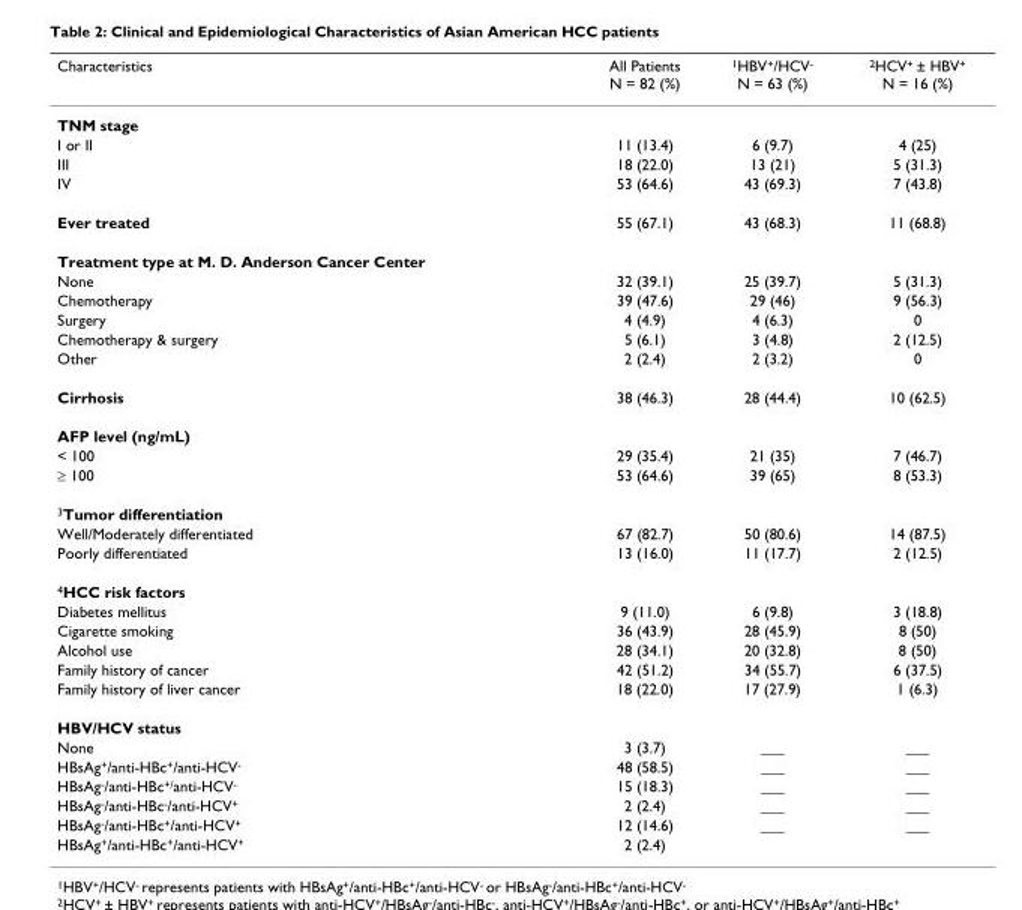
<table><thead><tr><td>Characteristics</td><td>All Patients N = 82 (%)</td><td><sup>1</sup>HBV<sup>+</sup>/HCV<sup>-</sup> N = 63 (%)</td><td><sup>2</sup>HCV<sup>+</sup> ± HBV<sup>+</sup> N = 16 (%)</td></tr></thead><tbody><tr><td colspan="4">TNM stage</td></tr><tr><td>I or II</td><td>11 (13.4)</td><td>6 (9.7)</td><td>4 (25)</td></tr><tr><td>III</td><td>18 (22.0)</td><td>13 (21)</td><td>5 (31.3)</td></tr><tr><td>IV</td><td>53 (64.6)</td><td>43 (69.3)</td><td>7 (43.8)</td></tr><tr><td>Ever treated</td><td>55 (67.1)</td><td>43 (68.3)</td><td>11 (68.8)</td></tr><tr><td colspan="4">Treatment type at M. D. Anderson Cancer Center</td></tr><tr><td>None</td><td>32 (39.1)</td><td>25 (39.7)</td><td>5 (31.3)</td></tr><tr><td>Chemotherapy</td><td>39 (47.6)</td><td>29 (46)</td><td>9 (56.3)</td></tr><tr><td>Surgery</td><td>4 (4.9)</td><td>4 (6.3)</td><td>0</td></tr><tr><td>Chemotherapy &amp; surgery</td><td>5 (6.1)</td><td>3 (4.8)</td><td>2 (12.5)</td></tr><tr><td>Other</td><td>2 (2.4)</td><td>2 (3.2)</td><td>0</td></tr><tr><td>Cirrhosis</td><td>38 (46.3)</td><td>28 (44.4)</td><td>10 (62.5)</td></tr><tr><td colspan="4">AFP level (ng/mL)</td></tr><tr><td>&lt; 100</td><td>29 (35.4)</td><td>21 (35)</td><td>7 (46.7)</td></tr><tr><td>≥ 100</td><td>53 (64.6)</td><td>39 (65)</td><td>8 (53.3)</td></tr><tr><td colspan="4"><sup>3</sup>Tumor differentiation</td></tr><tr><td>Well/Moderately differentiated</td><td>67 (82.7)</td><td>50 (80.6)</td><td>14 (87.5)</td></tr><tr><td>Poorly differentiated</td><td>13 (16.0)</td><td>11 (17.7)</td><td>2 (12.5)</td></tr><tr><td colspan="4"><sup>4</sup>HCC risk factors</td></tr><tr><td>Diabetes mellitus</td><td>9 (11.0)</td><td>6 (9.8)</td><td>3 (18.8)</td></tr><tr><td>Cigarette smoking</td><td>36 (43.9)</td><td>28 (45.9)</td><td>8 (50)</td></tr><tr><td>Alcohol use</td><td>28 (34.1)</td><td>20 (32.8)</td><td>8 (50)</td></tr><tr><td>Family history of cancer</td><td>42 (51.2)</td><td>34 (55.7)</td><td>6 (37.5)</td></tr><tr><td>Family history of liver cancer</td><td>18 (22.0)</td><td>17 (27.9)</td><td>1 (6.3)</td></tr><tr><td colspan="4">HBV/HCV status</td></tr><tr><td>None</td><td>3 (3.7)</td><td>___</td><td>___</td></tr><tr><td>HBsAg<sup>+</sup>/anti-HBc<sup>+</sup>/anti-HCV<sup>-</sup></td><td>48 (58.5)</td><td>___</td><td>___</td></tr><tr><td>HBsAg<sup>-</sup>/anti-HBc<sup>+/</sup>anti-HCV<sup>-</sup></td><td>15 (18.3)</td><td>___</td><td>___</td></tr><tr><td>HBsAg<sup>-</sup>/anti-HBc<sup>-</sup>/anti-HCV<sup>+</sup></td><td>2 (2.4)</td><td>___</td><td>___</td></tr><tr><td>HBsAg<sup>-</sup>/anti-HBc<sup>+</sup>/anti-HCV<sup>+</sup></td><td>12 (14.6)</td><td>___</td><td>___</td></tr><tr><td>HBsAg<sup>+</sup>/anti-HBc<sup>+</sup>/anti-HCV<sup>+</sup></td><td>2 (2.4)</td><td></td><td></td></tr></tbody></table>